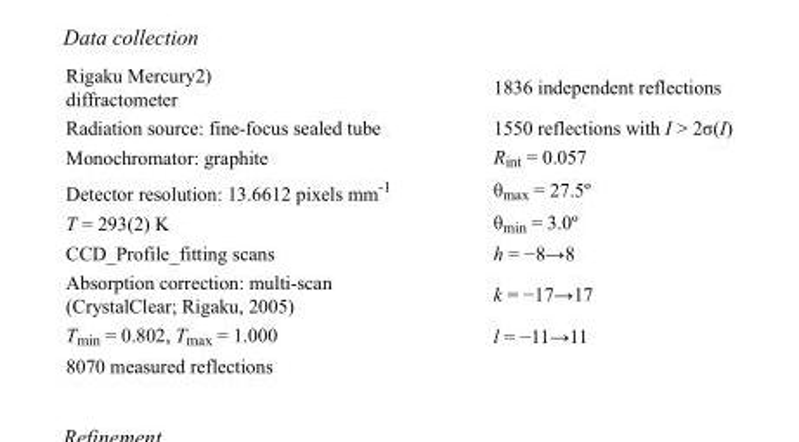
<table><tbody><tr><td>Rigaku Mercury2) diffractometer</td><td>1836 independent reflections</td></tr><tr><td>Radiation source: fine-focus sealed tube</td><td>1550 reflections with I &gt; 2σ(I)</td></tr><tr><td>Monochromator: graphite</td><td>R<sub>int</sub> = 0.057</td></tr><tr><td>Detector resolution: 13.6612 pixels mm<sup>-1</sup></td><td>θ<sub>max</sub> = 27.5º</td></tr><tr><td>T = 293(2) K</td><td>θ<sub>min</sub> = 3.0º</td></tr><tr><td>CCD_Profile_fitting scans</td><td>h = −8→8</td></tr><tr><td>Absorption correction: multi-scan (CrystalClear; Rigaku, 2005)</td><td>k = −17→17</td></tr><tr><td>T<sub>min</sub> = 0.802, T<sub>max</sub> = 1.000</td><td>l = −11→11</td></tr><tr><td>8070 measured reflections</td><td></td></tr></tbody></table>